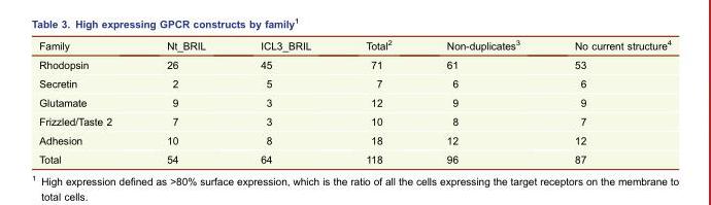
<table><thead><tr><td>Family</td><td>Nt_BRIL</td><td>ICL3_BRIL</td><td>Total<sup>2</sup></td><td>Non-duplicates<sup>3</sup></td><td>No current structure<sup>4</sup></td></tr></thead><tbody><tr><td>Rhodopsin</td><td>26</td><td>45</td><td>71</td><td>61</td><td>53</td></tr><tr><td>Secretin</td><td>2</td><td>5</td><td>7</td><td>6</td><td>6</td></tr><tr><td>Glutamate</td><td>9</td><td>3</td><td>12</td><td>9</td><td>9</td></tr><tr><td>Frizzled/Taste 2</td><td>7</td><td>3</td><td>10</td><td>8</td><td>7</td></tr><tr><td>Adhesion</td><td>10</td><td>8</td><td>18</td><td>12</td><td>12</td></tr><tr><td>Total</td><td>54</td><td>64</td><td>118</td><td>96</td><td>87</td></tr></tbody></table>